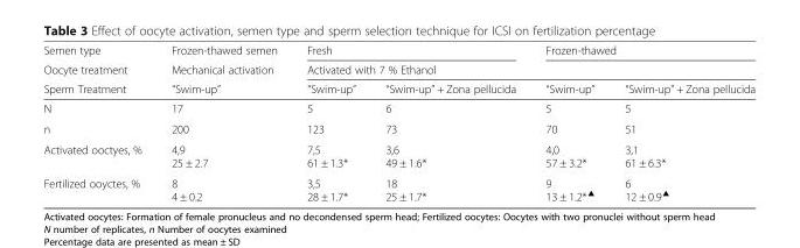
<table><thead><tr><td rowspan="3">Semen type Oocyte treatment Sperm Treatment</td><td rowspan="3">Frozen-thawed semen Mechanical activation “Swim-up”</td><td colspan="2">Fresh</td><td colspan="2">Frozen-thawed</td></tr><tr><td colspan="4">Activated with 7 % Ethanol</td></tr><tr><td>“Swim-up”</td><td>“Swim-up” + Zona pellucida</td><td>“Swim-up”</td><td>“Swim-up” + Zona pellucida</td></tr></thead><tbody><tr><td>N</td><td>17</td><td>5</td><td>6</td><td>5</td><td>5</td></tr><tr><td>n</td><td>200</td><td>123</td><td>73</td><td>70</td><td>51</td></tr><tr><td>Activated ooctyes, %</td><td>4,9 25 ± 2.7</td><td>7,5 61 ± 1.3*</td><td>3,6 49 ± 1.6*</td><td>4,0 57 ± 3.2*</td><td>3,1 61 ± 6.3*</td></tr><tr><td>Fertilized ooyctes, %</td><td>8 4 ± 0.2</td><td>3,5 28 ± 1.7*</td><td>18 25 ± 1.7*</td><td>9 13 ± 1.2*<sup>▲</sup></td><td>6 12 ± 0.9<sup>▲</sup></td></tr></tbody></table>